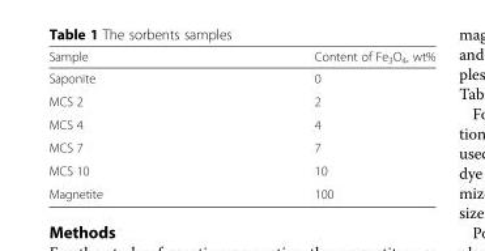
<table><thead><tr><td>Sample</td><td>Content of Fe<sub>3</sub>O<sub>4</sub>, wt%</td></tr></thead><tbody><tr><td>Saponite</td><td>0</td></tr><tr><td>MCS 2</td><td>2</td></tr><tr><td>MCS 4</td><td>4</td></tr><tr><td>MCS 7</td><td>7</td></tr><tr><td>MCS 10</td><td>10</td></tr><tr><td>Magnetite</td><td>100</td></tr></tbody></table>